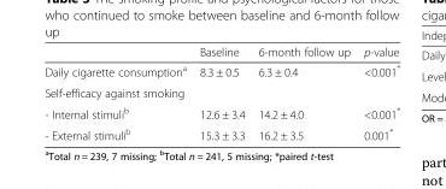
<table><thead><tr><td></td><td>Baseline</td><td>6-month follow up</td><td>p-value</td></tr></thead><tbody><tr><td>Daily cigarette consumption<sup>a</sup></td><td>8.3 ± 0.5</td><td>6.3 ± 0.4</td><td>&lt;0.001*</td></tr><tr><td colspan="4">Self-efficacy against smoking</td></tr><tr><td>- Internal stimuli<sup>b</sup></td><td>12.6 ± 3.4</td><td>14.2 ± 4.0</td><td>&lt;0.001*</td></tr><tr><td>- External stimuli<sup>b</sup></td><td>15.3 ± 3.3</td><td>16.2 ± 3.5</td><td>0.001*</td></tr></tbody></table>